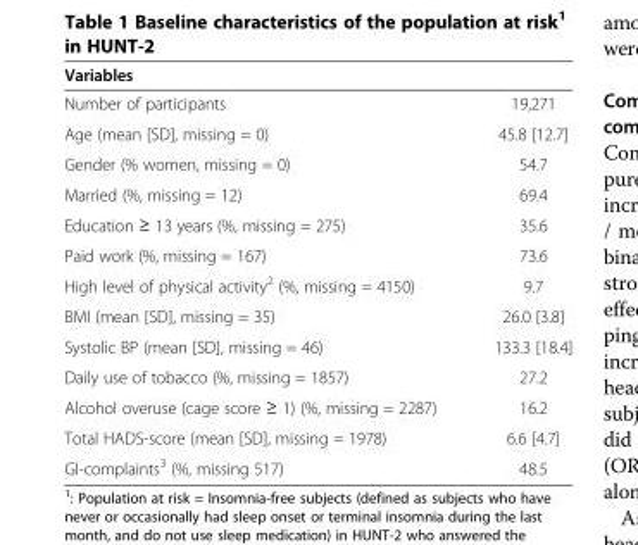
<table><thead><tr><td>Variables</td><td></td></tr></thead><tbody><tr><td>Number of participants</td><td>19,271</td></tr><tr><td>Age (mean [SD], missing = 0)</td><td>45.8 [12.7]</td></tr><tr><td>Gender (% women, missing = 0)</td><td>54.7</td></tr><tr><td>Married (%, missing = 12)</td><td>69.4</td></tr><tr><td>Education ≥ 13 years (%, missing = 275)</td><td>35.6</td></tr><tr><td>Paid work (%, missing = 167)</td><td>73.6</td></tr><tr><td>High level of physical activity<sup>2</sup> (%, missing = 4150)</td><td>9.7</td></tr><tr><td>BMI (mean [SD], missing = 35)</td><td>26.0 [3.8]</td></tr><tr><td>Systolic BP (mean [SD], missing = 46)</td><td>133.3 [18.4]</td></tr><tr><td>Daily use of tobacco (%, missing = 1857)</td><td>27.2</td></tr><tr><td>Alcohol overuse (cage score ≥ 1) (%, missing = 2287)</td><td>16.2</td></tr><tr><td>Total HADS-score (mean [SD], missing = 1978)</td><td>6.6 [4.7]</td></tr><tr><td>GI-complaints<sup>3</sup> (%, missing 517)</td><td>48.5</td></tr></tbody></table>